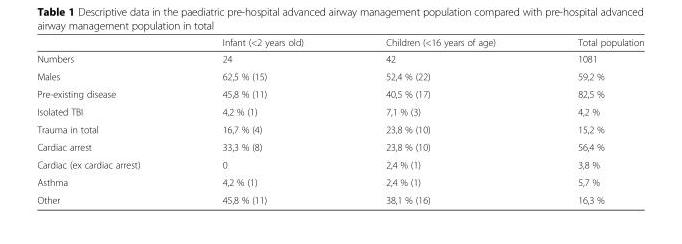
<table><thead><tr><td></td><td>Infant (&lt;2 years old)</td><td>Children (&lt;16 years of age)</td><td>Total population</td></tr></thead><tbody><tr><td>Numbers</td><td>24</td><td>42</td><td>1081</td></tr><tr><td>Males</td><td>62,5 % (15)</td><td>52,4 % (22)</td><td>59,2 %</td></tr><tr><td>Pre-existing disease</td><td>45,8 % (11)</td><td>40,5 % (17)</td><td>82,5 %</td></tr><tr><td>Isolated TBI</td><td>4,2 % (1)</td><td>7,1 % (3)</td><td>4,2 %</td></tr><tr><td>Trauma in total</td><td>16,7 % (4)</td><td>23,8 % (10)</td><td>15,2 %</td></tr><tr><td>Cardiac arrest</td><td>33,3 % (8)</td><td>23,8 % (10)</td><td>56,4 %</td></tr><tr><td>Cardiac (ex cardiac arrest)</td><td>0</td><td>2,4 % (1)</td><td>3,8 %</td></tr><tr><td>Asthma</td><td>4,2 % (1)</td><td>2,4 % (1)</td><td>5,7 %</td></tr><tr><td>Other</td><td>45,8 % (11)</td><td>38,1 % (16)</td><td>16,3 %</td></tr></tbody></table>